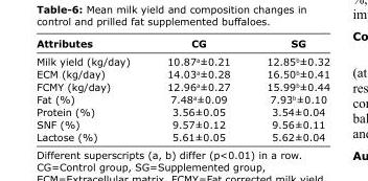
<table><thead><tr><td>Attributes</td><td>CG</td><td>SG</td></tr></thead><tbody><tr><td>Milk yield (kg/day)</td><td>10.87<sup>a</sup>±0.21</td><td>12.85<sup>b</sup>±0.32</td></tr><tr><td>ECM (kg/day)</td><td>14.03<sup>a</sup>±0.28</td><td>16.50<sup>b</sup>±0.41</td></tr><tr><td>FCMY (kg/day)</td><td>12.96<sup>a</sup>±0.27</td><td>15.99<sup>b</sup>±0.44</td></tr><tr><td>Fat (%)</td><td>7.48<sup>a</sup>±0.09</td><td>7.93<sup>b</sup>±0.10</td></tr><tr><td>Protein (%)</td><td>3.56±0.05</td><td>3.54±0.04</td></tr><tr><td>SNF (%)</td><td>9.57±0.12</td><td>9.56±0.11</td></tr><tr><td>Lactose (%)</td><td>5.61±0.05</td><td>5.62±0.04</td></tr></tbody></table>